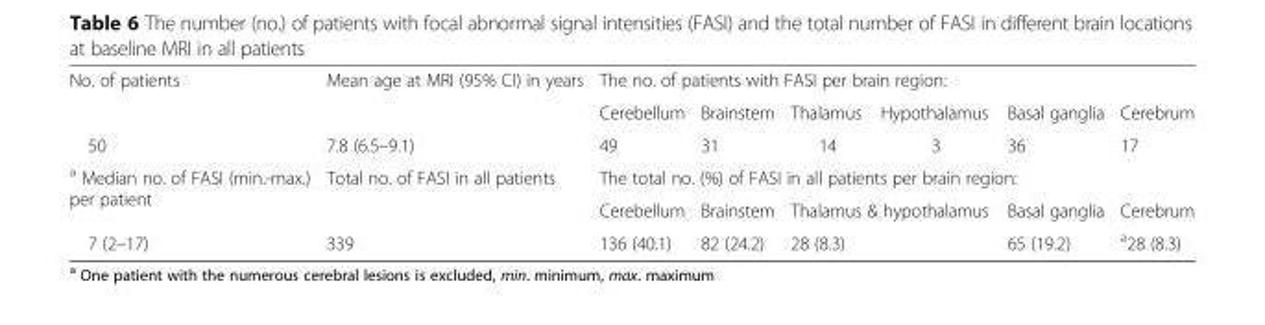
<table><tbody><tr><td rowspan="2">No. of patients</td><td rowspan="2">Mean age at MRI (95% CI) in years</td><td colspan="6">The no. of patients with FASI per brain region:</td></tr><tr><td>Cerebellum</td><td>Brainstem</td><td>Thalamus</td><td>Hypothalamus</td><td>Basal ganglia</td><td>Cerebrum</td></tr><tr><td>50</td><td>7.8 (6.5–9.1)</td><td>49</td><td>31</td><td>14</td><td>3</td><td>36</td><td>17</td></tr><tr><td rowspan="2"><sup>a</sup> Median no. of FASI (min.-max.) per patient</td><td rowspan="2">Total no. of FASI in all patients</td><td colspan="6">The total no. (%) of FASI in all patients per brain region:</td></tr><tr><td>Cerebellum</td><td>Brainstem</td><td colspan="2">Thalamus &amp; hypothalamus</td><td>Basal ganglia</td><td>Cerebrum</td></tr><tr><td>7 (2–17)</td><td>339</td><td>136 (40.1)</td><td>82 (24.2)</td><td colspan="2">28 (8.3)</td><td>65 (19.2)</td><td><sup>a</sup>28 (8.3)</td></tr></tbody></table>